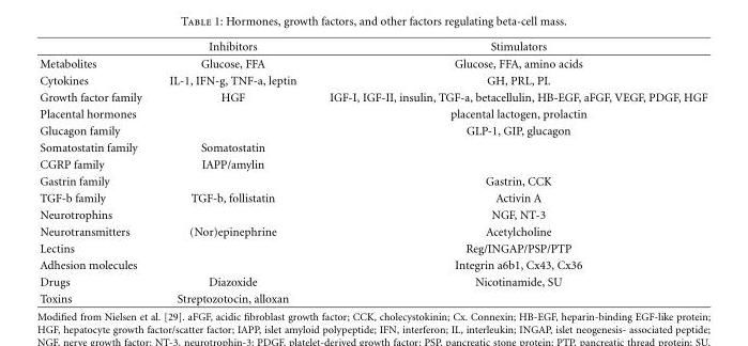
<table><thead><tr><td></td><td>Inhibitors</td><td>Stimulators</td></tr></thead><tbody><tr><td>Metabolites</td><td>Glucose, FFA</td><td>Glucose, FFA, amino acids</td></tr><tr><td>Cytokines</td><td>IL-1, IFN-g, TNF-a, leptin</td><td>GH, PRL, PL</td></tr><tr><td>Growth factor family</td><td>HGF</td><td>IGF-I, IGF-II, insulin, TGF-a, betacellulin, HB-EGF, aFGF, VEGF, PDGF, HGF</td></tr><tr><td>Placental hormones</td><td></td><td>placental lactogen, prolactin</td></tr><tr><td>Glucagon family</td><td></td><td>GLP-1, GIP, glucagon</td></tr><tr><td>Somatostatin family</td><td>Somatostatin</td><td></td></tr><tr><td>CGRP family</td><td>IAPP/amylin</td><td></td></tr><tr><td>Gastrin family</td><td></td><td>Gastrin, CCK</td></tr><tr><td>TGF-b family</td><td>TGF-b, follistatin</td><td>Activin A</td></tr><tr><td>Neurotrophins</td><td></td><td>NGF, NT-3</td></tr><tr><td>Neurotransmitters</td><td>(Nor)epinephrine</td><td>Acetylcholine</td></tr><tr><td>Lectins</td><td></td><td>Reg/INGAP/PSP/PTP</td></tr><tr><td>Adhesion molecules</td><td></td><td>Integrin a6b1, Cx43, Cx36</td></tr><tr><td>Drugs</td><td>Diazoxide</td><td>Nicotinamide, SU</td></tr><tr><td>Toxins</td><td>Streptozotocin, alloxan</td><td></td></tr></tbody></table>